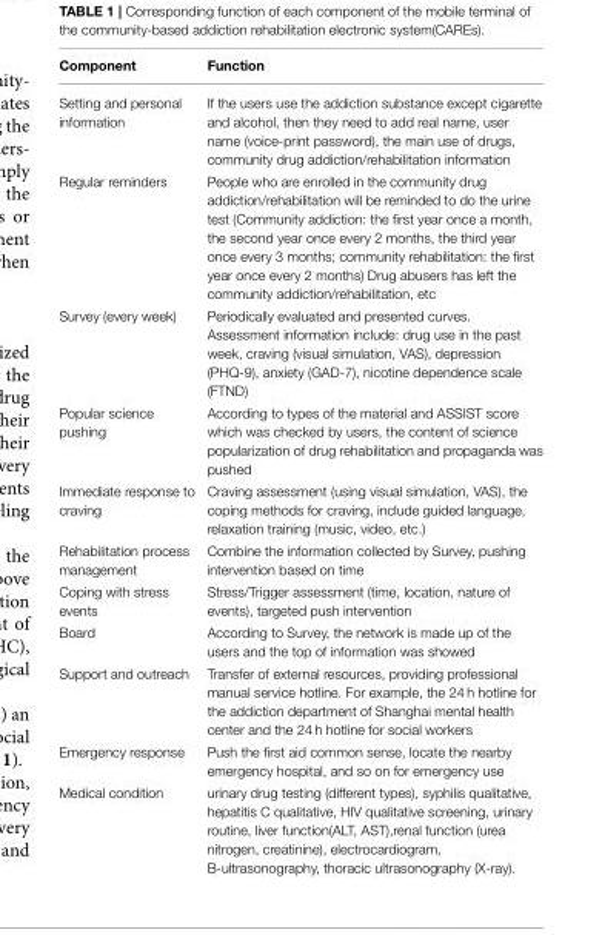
<table><thead><tr><td>Component</td><td>Function</td></tr></thead><tbody><tr><td>Setting and personal information</td><td>If the users use the addiction substance except cigarette and alcohol, then they need to add real name, user name (voice-print password), the main use of drugs, community drug addiction/rehabilitation information</td></tr><tr><td>Regular reminders</td><td>People who are enrolled in the community drug addiction/rehabilitation will be reminded to do the urine test (Community addiction: the first year once a month, the second year once every 2 months, the third year once every 3 months; community rehabilitation: the first year once every 2 months) Drug abusers has left the community addiction/rehabilitation, etc</td></tr><tr><td>Survey (every week)</td><td>Periodically evaluated and presented curves. Assessment information include: drug use in the past week, craving (visual simulation, VAS), depression (PHQ-9), anxiety (GAD-7), nicotine dependence scale (FTND)</td></tr><tr><td>Popular science pushing</td><td>According to types of the material and ASSIST score which was checked by users, the content of science popularization of drug rehabilitation and propaganda was pushed</td></tr><tr><td>Immediate response to craving</td><td>Craving assessment (using visual simulation, VAS), the coping methods for craving, include guided language, relaxation training (music, video, etc.)</td></tr><tr><td>Rehabilitation process management</td><td>Combine the information collected by Survey, pushing intervention based on time</td></tr><tr><td>Coping with stress events</td><td>Stress/Trigger assessment (time, location, nature of events), targeted push intervention</td></tr><tr><td>Board</td><td>According to Survey, the network is made up of the users and the top of information was showed</td></tr><tr><td>Support and outreach</td><td>Transfer of external resources, providing professional manual service hotline. For example, the 24 h hotline for the addiction department of Shanghai mental health center and the 24 h hotline for social workers</td></tr><tr><td>Emergency response</td><td>Push the first aid common sense, locate the nearby emergency hospital, and so on for emergency use</td></tr><tr><td>Medical condition</td><td>urinary drug testing (different types), syphilis qualitative, hepatitis C qualitative, HIV qualitative screening, urinary routine, liver function(ALT, AST),renal function (urea nitrogen, creatinine), electrocardiogram, B-ultrasonography, thoracic ultrasonography (X-ray).</td></tr></tbody></table>